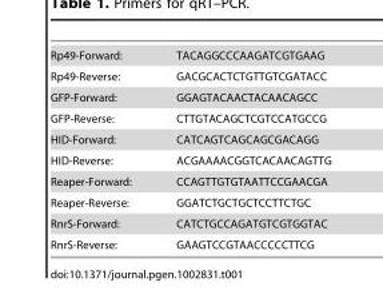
<table><tbody><tr><td>Rp49-Forward:</td><td>TACAGGCCCAAGATCGTGAAG</td></tr><tr><td>Rp49-Reverse:</td><td>GACGCACTCTGTTGTCGATACC</td></tr><tr><td>GFP-Forward:</td><td>GGAGTACAACTACAACAGCC</td></tr><tr><td>GFP-Reverse:</td><td>CTTGTACAGCTCGTCCATGCCG</td></tr><tr><td>HID-Forward:</td><td>CATCAGTCAGCAGCGACAGG</td></tr><tr><td>HID-Reverse:</td><td>ACGAAAACGGTCACAACAGTTG</td></tr><tr><td>Reaper-Forward:</td><td>CCAGTTGTGTAATTCCGAACGA</td></tr><tr><td>Reaper-Reverse:</td><td>GGATCTGCTGCTCCTTCTGC</td></tr><tr><td>RnrS-Forward:</td><td>CATCTGCCAGATGTCGTGGTAC</td></tr><tr><td>RnrS-Reverse:</td><td>GAAGTCCGTAACCCCCTTCG</td></tr></tbody></table>